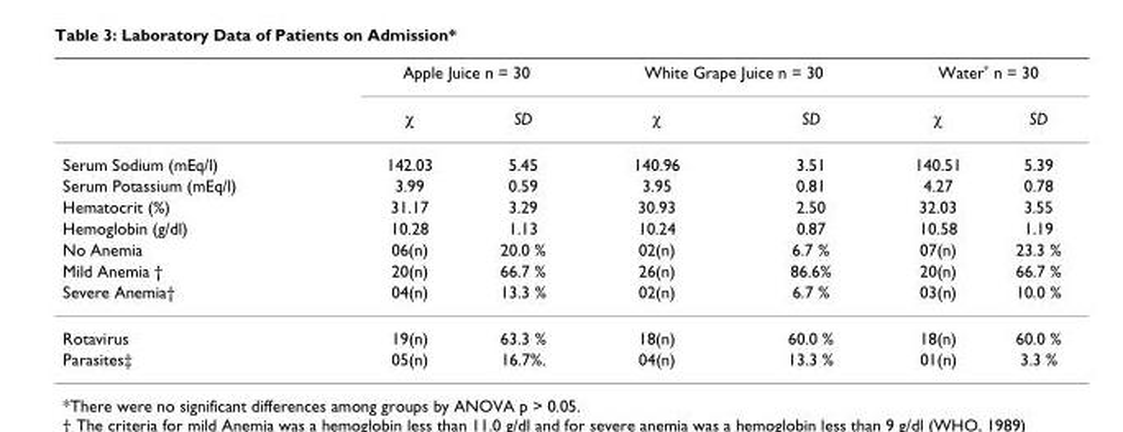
<table><thead><tr><td rowspan="2"></td><td colspan="2">Apple Juice n = 30</td><td colspan="2">White Grape Juice n = 30</td><td colspan="2">Water* n = 30</td></tr><tr><td>χ</td><td>SD</td><td>χ</td><td>SD</td><td>χ</td><td>SD</td></tr></thead><tbody><tr><td>Serum Sodium (mEq/l)</td><td>142.03</td><td>5.45</td><td>140.96</td><td>3.51</td><td>140.51</td><td>5.39</td></tr><tr><td>Serum Potassium (mEq/l)</td><td>3.99</td><td>0.59</td><td>3.95</td><td>0.81</td><td>4.27</td><td>0.78</td></tr><tr><td>Hematocrit (%)</td><td>31.17</td><td>3.29</td><td>30.93</td><td>2.50</td><td>32.03</td><td>3.55</td></tr><tr><td>Hemoglobin (g/dl)</td><td>10.28</td><td>1.13</td><td>10.24</td><td>0.87</td><td>10.58</td><td>1.19</td></tr><tr><td>No Anemia</td><td>06(n)</td><td>20.0 %</td><td>02(n)</td><td>6.7 %</td><td>07(n)</td><td>23.3 %</td></tr><tr><td>Mild Anemia †</td><td>20(n)</td><td>66.7 %</td><td>26(n)</td><td>86.6%</td><td>20(n)</td><td>66.7 %</td></tr><tr><td>Severe Anemia†</td><td>04(n)</td><td>13.3 %</td><td>02(n)</td><td>6.7 %</td><td>03(n)</td><td>10.0 %</td></tr><tr><td>Rotavirus</td><td>19(n)</td><td>63.3 %</td><td>18(n)</td><td>60.0 %</td><td>18(n)</td><td>60.0 %</td></tr><tr><td>Parasites‡</td><td>05(n)</td><td>16.7%.</td><td>04(n)</td><td>13.3 %</td><td>01(n)</td><td>3.3 %</td></tr></tbody></table>